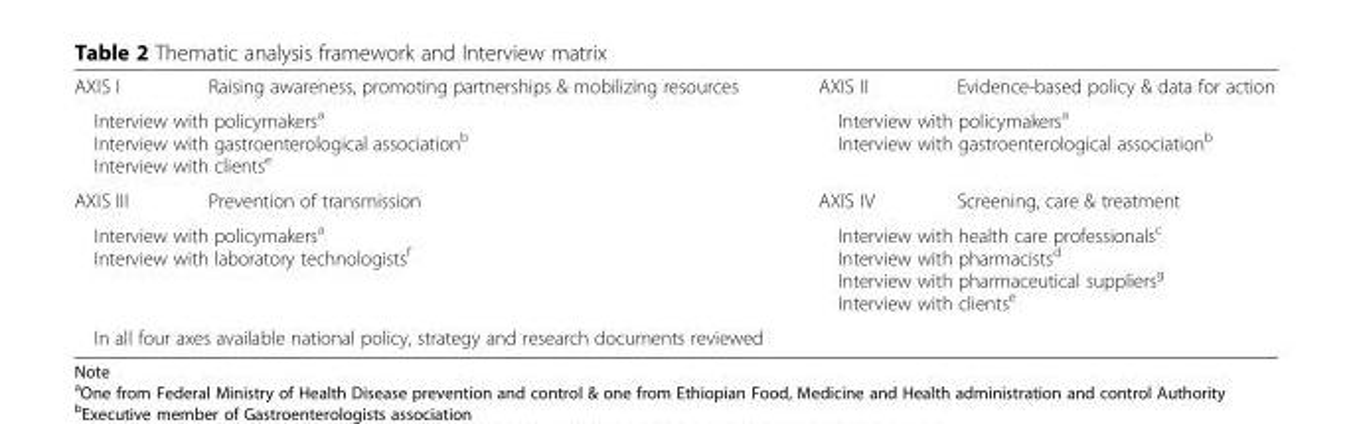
<table><tbody><tr><td>AXIS I</td><td>Raising awareness, promoting partnerships &amp; mobilizing resources</td><td>AXIS II</td><td>Evidence-based policy &amp; data for action</td></tr><tr><td colspan="2">Interview with policymakers<sup>a</sup> Interview with gastroenterological association<sup>b</sup> Interview with clients<sup>e</sup></td><td colspan="2">Interview with policymakers<sup>a</sup> Interview with gastroenterological association<sup>b</sup></td></tr><tr><td>AXIS III</td><td>Prevention of transmission</td><td>AXIS IV</td><td>Screening, care &amp; treatment</td></tr><tr><td colspan="2">Interview with policymakers<sup>a</sup> Interview with laboratory technologists<sup>f</sup></td><td colspan="2">Interview with health care professionals<sup>c</sup> Interview with pharmacists<sup>d</sup> Interview with pharmaceutical suppliers<sup>g</sup> Interview with clients<sup>e</sup></td></tr><tr><td colspan="4">In all four axes available national policy, strategy and research documents reviewed</td></tr></tbody></table>